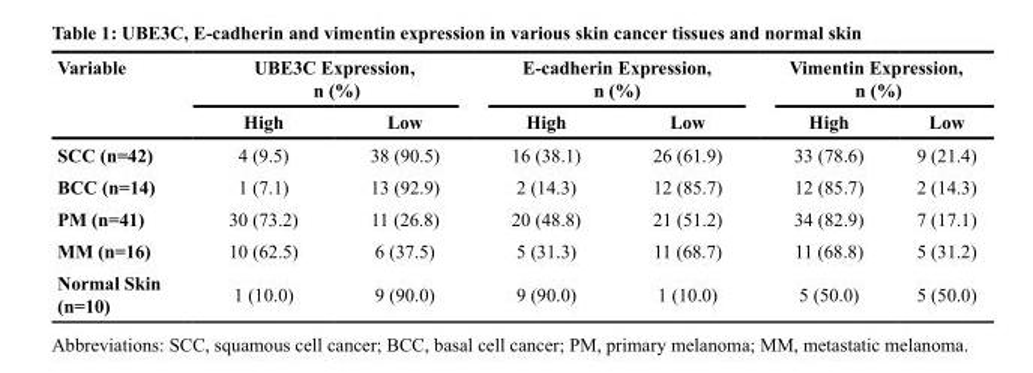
<table><thead><tr><td rowspan="2">Variable</td><td colspan="2">UBE3C Expression, n (%)</td><td colspan="2">E-cadherin Expression, n (%)</td><td colspan="2">Vimentin Expression, n (%)</td></tr><tr><td>High</td><td>Low</td><td>High</td><td>Low</td><td>High</td><td>Low</td></tr></thead><tbody><tr><td>SCC (n=42)</td><td>4 (9.5)</td><td>38 (90.5)</td><td>16 (38.1)</td><td>26 (61.9)</td><td>33 (78.6)</td><td>9 (21.4)</td></tr><tr><td>BCC (n=14)</td><td>1 (7.1)</td><td>13 (92.9)</td><td>2 (14.3)</td><td>12 (85.7)</td><td>12 (85.7)</td><td>2 (14.3)</td></tr><tr><td>PM (n=41)</td><td>30 (73.2)</td><td>11 (26.8)</td><td>20 (48.8)</td><td>21 (51.2)</td><td>34 (82.9)</td><td>7 (17.1)</td></tr><tr><td>MM (n=16)</td><td>10 (62.5)</td><td>6 (37.5)</td><td>5 (31.3)</td><td>11 (68.7)</td><td>11 (68.8)</td><td>5 (31.2)</td></tr><tr><td>Normal Skin (n=10)</td><td>1 (10.0)</td><td>9 (90.0)</td><td>9 (90.0)</td><td>1 (10.0)</td><td>5 (50.0)</td><td>5 (50.0)</td></tr></tbody></table>